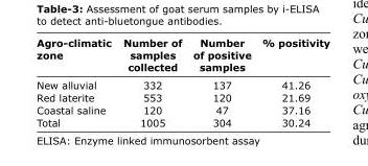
<table><thead><tr><td>Agro-climatic zone</td><td>Number of samples collected</td><td>Number of positive samples</td><td>% positivity</td></tr></thead><tbody><tr><td>New alluvial</td><td>332</td><td>137</td><td>41.26</td></tr><tr><td>Red laterite</td><td>553</td><td>120</td><td>21.69</td></tr><tr><td>Coastal saline</td><td>120</td><td>47</td><td>37.16</td></tr><tr><td>Total</td><td>1005</td><td>304</td><td>30.24</td></tr></tbody></table>